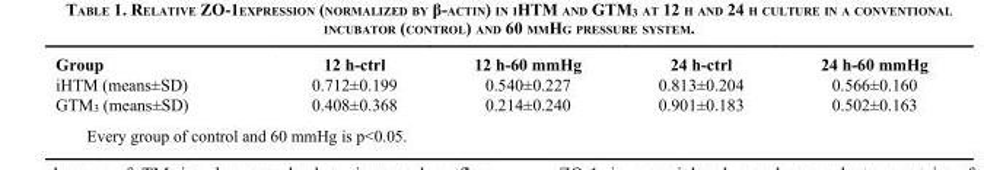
<table><thead><tr><td>Group</td><td>12 h-ctrl</td><td>12 h-60 mmHg</td><td>24 h-ctrl</td><td>24 h-60 mmHg</td></tr></thead><tbody><tr><td>iHTM (means±SD)</td><td>0.712±0.199</td><td>0.540±0.227</td><td>0.813±0.204</td><td>0.566±0.160</td></tr><tr><td>GTM<sub>3</sub> (means±SD)</td><td>0.408±0.368</td><td>0.214±0.240</td><td>0.901±0.183</td><td>0.502±0.163</td></tr></tbody></table>